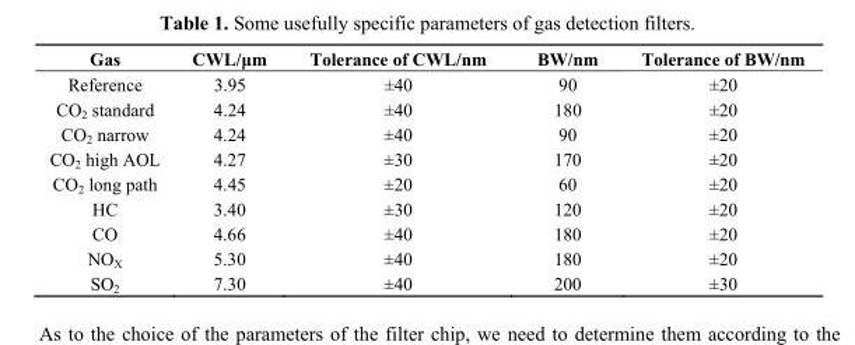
<table><thead><tr><td>Gas</td><td>CWL/μm</td><td>Tolerance of CWL/nm</td><td>BW/nm</td><td>Tolerance of BW/nm</td></tr></thead><tbody><tr><td>Reference</td><td>3.95</td><td>±40</td><td>90</td><td>±20</td></tr><tr><td>CO<sub>2</sub> standard</td><td>4.24</td><td>±40</td><td>180</td><td>±20</td></tr><tr><td>CO<sub>2</sub> narrow</td><td>4.24</td><td>±40</td><td>90</td><td>±20</td></tr><tr><td>CO<sub>2</sub> high AOL</td><td>4.27</td><td>±30</td><td>170</td><td>±20</td></tr><tr><td>CO<sub>2</sub> long path</td><td>4.45</td><td>±20</td><td>60</td><td>±20</td></tr><tr><td>HC</td><td>3.40</td><td>±30</td><td>120</td><td>±20</td></tr><tr><td>CO</td><td>4.66</td><td>±40</td><td>180</td><td>±20</td></tr><tr><td>NO<sub>X</sub></td><td>5.30</td><td>±40</td><td>180</td><td>±20</td></tr><tr><td>SO<sub>2</sub></td><td>7.30</td><td>±40</td><td>200</td><td>±30</td></tr></tbody></table>